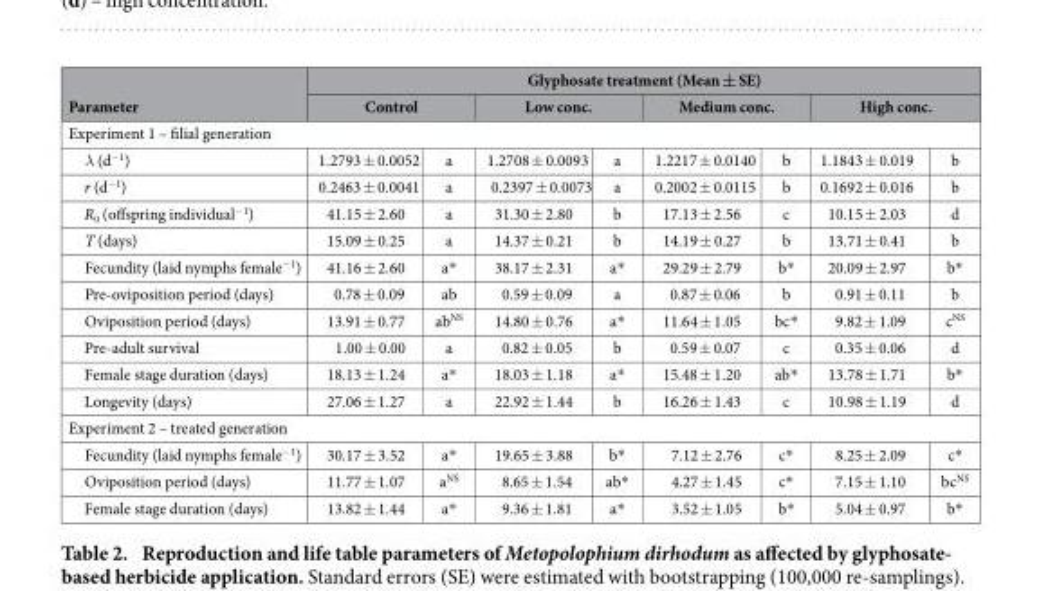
<table><thead><tr><td rowspan="2">Parameter</td><td colspan="8">Glyphosate treatment (Mean ± SE)</td></tr><tr><td colspan="2">Control</td><td colspan="2">Low conc.</td><td colspan="2">Medium conc.</td><td colspan="2">High conc.</td></tr><tr><td colspan="9">Experiment 1 – filial generation</td></tr><tr><td>λ (d<sup>−1</sup>)</td><td>1.2793 ± 0.0052</td><td>a</td><td>1.2708 ± 0.0093</td><td>a</td><td>1.2217 ± 0.0140</td><td>b</td><td>1.1843 ± 0.019</td><td>b</td></tr></thead><tbody><tr><td>r (d<sup>−1</sup>)</td><td>0.2463 ± 0.0041</td><td>a</td><td>0.2397 ± 0.0073</td><td>a</td><td>0.2002 ± 0.0115</td><td>b</td><td>0.1692 ± 0.016</td><td>b</td></tr><tr><td>R<sub>0</sub> (offspring individual<sup>−1</sup>)</td><td>41.15 ± 2.60</td><td>a</td><td>31.30 ± 2.80</td><td>b</td><td>17.13 ± 2.56</td><td>c</td><td>10.15 ± 2.03</td><td>d</td></tr><tr><td>T (days)</td><td>15.09 ± 0.25</td><td>a</td><td>14.37 ± 0.21</td><td>b</td><td>14.19 ± 0.27</td><td>b</td><td>13.71 ± 0.41</td><td>b</td></tr><tr><td>Fecundity (laid nymphs female<sup>−1</sup>)</td><td>41.16 ± 2.60</td><td>a*</td><td>38.17 ± 2.31</td><td>a*</td><td>29.29 ± 2.79</td><td>b*</td><td>20.09 ± 2.97</td><td>b*</td></tr><tr><td>Pre-oviposition period (days)</td><td>0.78 ± 0.09</td><td>ab</td><td>0.59 ± 0.09</td><td>a</td><td>0.87 ± 0.06</td><td>b</td><td>0.91 ± 0.11</td><td>b</td></tr><tr><td>Oviposition period (days)</td><td>13.91 ± 0.77</td><td>ab<sup>NS</sup></td><td>14.80 ± 0.76</td><td>a*</td><td>11.64 ± 1.05</td><td>bc*</td><td>9.82 ± 1.09</td><td>c<sup>NS</sup></td></tr><tr><td>Pre-adult survival</td><td>1.00 ± 0.00</td><td>a</td><td>0.82 ± 0.05</td><td>b</td><td>0.59 ± 0.07</td><td>c</td><td>0.35 ± 0.06</td><td>d</td></tr><tr><td>Female stage duration (days)</td><td>18.13 ± 1.24</td><td>a*</td><td>18.03 ± 1.18</td><td>a*</td><td>15.48 ± 1.20</td><td>ab*</td><td>13.78 ± 1.71</td><td>b*</td></tr><tr><td>Longevity (days)</td><td>27.06 ± 1.27</td><td>a</td><td>22.92 ± 1.44</td><td>b</td><td>16.26 ± 1.43</td><td>c</td><td>10.98 ± 1.19</td><td>d</td></tr><tr><td colspan="9">Experiment 2 – treated generation</td></tr><tr><td>Fecundity (laid nymphs female<sup>−1</sup>)</td><td>30.17 ± 3.52</td><td>a*</td><td>19.65 ± 3.88</td><td>b*</td><td>7.12 ± 2.76</td><td>c*</td><td>8.25 ± 2.09</td><td>c*</td></tr><tr><td>Oviposition period (days)</td><td>11.77 ± 1.07</td><td>a<sup>NS</sup></td><td>8.65 ± 1.54</td><td>ab*</td><td>4.27 ± 1.45</td><td>c*</td><td>7.15 ± 1.10</td><td>bc<sup>NS</sup></td></tr><tr><td>Female stage duration (days)</td><td>13.82 ± 1.44</td><td>a*</td><td>9.36 ± 1.81</td><td>a*</td><td>3.52 ± 1.05</td><td>b*</td><td>5.04 ± 0.97</td><td>b*</td></tr></tbody></table>